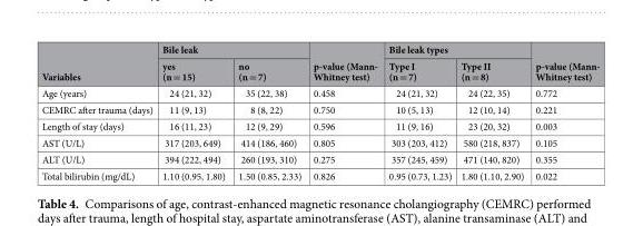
<table><thead><tr><td rowspan="2">Variables</td><td colspan="2">Bile leak</td><td rowspan="2">p-value (Mann- Whitney test)</td><td colspan="2">Bile leak types</td><td rowspan="2">p-value (Mann- Whitney test)</td></tr><tr><td>yes (n = 15)</td><td>no (n = 7)</td><td>Type I (n = 7)</td><td>Type II (n = 8)</td></tr></thead><tbody><tr><td>Age (years)</td><td>24 (21, 32)</td><td>35 (22, 38)</td><td>0.458</td><td>24 (21, 32)</td><td>24 (22, 35)</td><td>0.772</td></tr><tr><td>CEMRC after trauma (days)</td><td>11 (9, 13)</td><td>8 (8, 22)</td><td>0.750</td><td>10 (5, 13)</td><td>12 (10, 14)</td><td>0.221</td></tr><tr><td>Length of stay (days)</td><td>16 (11, 23)</td><td>12 (9, 29)</td><td>0.596</td><td>11 (9, 16)</td><td>23 (20, 32)</td><td>0.003</td></tr><tr><td>AST (U/L)</td><td>317 (203, 649)</td><td>414 (186, 460)</td><td>0.805</td><td>303 (203, 412)</td><td>580 (218, 837)</td><td>0.105</td></tr><tr><td>ALT (U/L)</td><td>394 (222, 494)</td><td>260 (193, 310)</td><td>0.275</td><td>357 (245, 459)</td><td>471 (140, 820)</td><td>0.355</td></tr><tr><td>Total bilirubin (mg/dL)</td><td>1.10 (0.95, 1.80)</td><td>1.50 (0.85, 2.33)</td><td>0.826</td><td>0.95 (0.73, 1.23)</td><td>1.80 (1.10, 2.90)</td><td>0.022</td></tr></tbody></table>